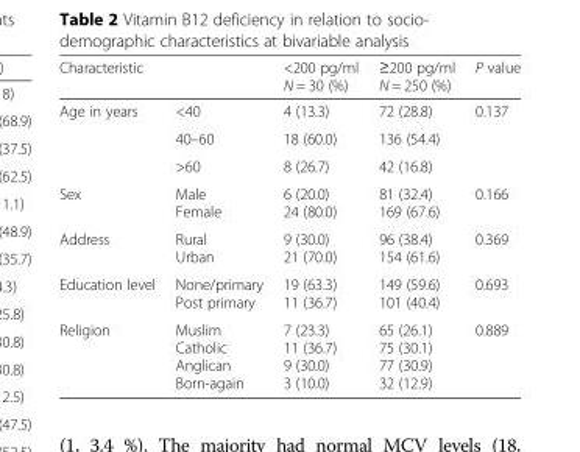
<table><thead><tr><td>Characteristic</td><td></td><td>&lt;200 pg/ml N = 30 (%)</td><td>≥200 pg/ml N = 250 (%)</td><td>P value</td></tr></thead><tbody><tr><td rowspan="3">Age in years</td><td>&lt;40</td><td>4 (13.3)</td><td>72 (28.8)</td><td>0.137</td></tr><tr><td>40–60</td><td>18 (60.0)</td><td>136 (54.4)</td><td></td></tr><tr><td>&gt;60</td><td>8 (26.7)</td><td>42 (16.8)</td><td></td></tr><tr><td>Sex</td><td>Male Female</td><td>6 (20.0) 24 (80.0)</td><td>81 (32.4) 169 (67.6)</td><td>0.166</td></tr><tr><td>Address</td><td>Rural Urban</td><td>9 (30.0) 21 (70.0)</td><td>96 (38.4) 154 (61.6)</td><td>0.369</td></tr><tr><td>Education level</td><td>None/primary Post primary</td><td>19 (63.3) 11 (36.7)</td><td>149 (59.6) 101 (40.4)</td><td>0.693</td></tr><tr><td>Religion</td><td>Muslim Catholic Anglican Born-again</td><td>7 (23.3) 11 (36.7) 9 (30.0) 3 (10.0)</td><td>65 (26.1) 75 (30.1) 77 (30.9) 32 (12.9)</td><td>0.889</td></tr></tbody></table>